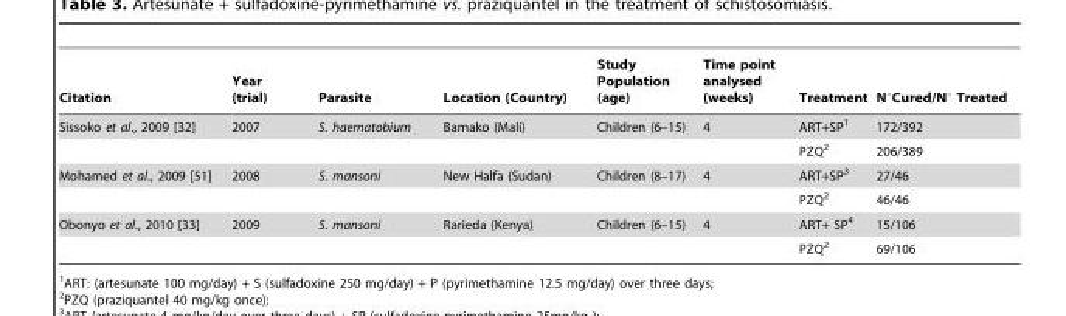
<table><thead><tr><td>Citation</td><td>Year (trial)</td><td>Parasite</td><td>Location (Country)</td><td>Study Population (age)</td><td>Time point analysed (weeks)</td><td>Treatment</td><td>N°Cured/N° Treated</td></tr></thead><tbody><tr><td rowspan="2">Sissoko et al., 2009 [32]</td><td>2007</td><td>S. haematobium</td><td>Bamako (Mali)</td><td>Children (6–15)</td><td>4</td><td>ART+SP<sup>1</sup></td><td>172/392</td></tr><tr><td></td><td></td><td></td><td></td><td></td><td>PZQ<sup>2</sup></td><td>206/389</td></tr><tr><td rowspan="2">Mohamed et al., 2009 [51]</td><td>2008</td><td>S. mansoni</td><td>New Halfa (Sudan)</td><td>Children (8–17)</td><td>4</td><td>ART+SP<sup>3</sup></td><td>27/46</td></tr><tr><td></td><td></td><td></td><td></td><td></td><td>PZQ<sup>2</sup></td><td>46/46</td></tr><tr><td rowspan="2">Obonyo et al., 2010 [33]</td><td>2009</td><td>S. mansoni</td><td>Rarieda (Kenya)</td><td>Children (6–15)</td><td>4</td><td>ART+ SP<sup>4</sup></td><td>15/106</td></tr><tr><td></td><td></td><td></td><td></td><td></td><td>PZQ<sup>2</sup></td><td>69/106</td></tr></tbody></table>